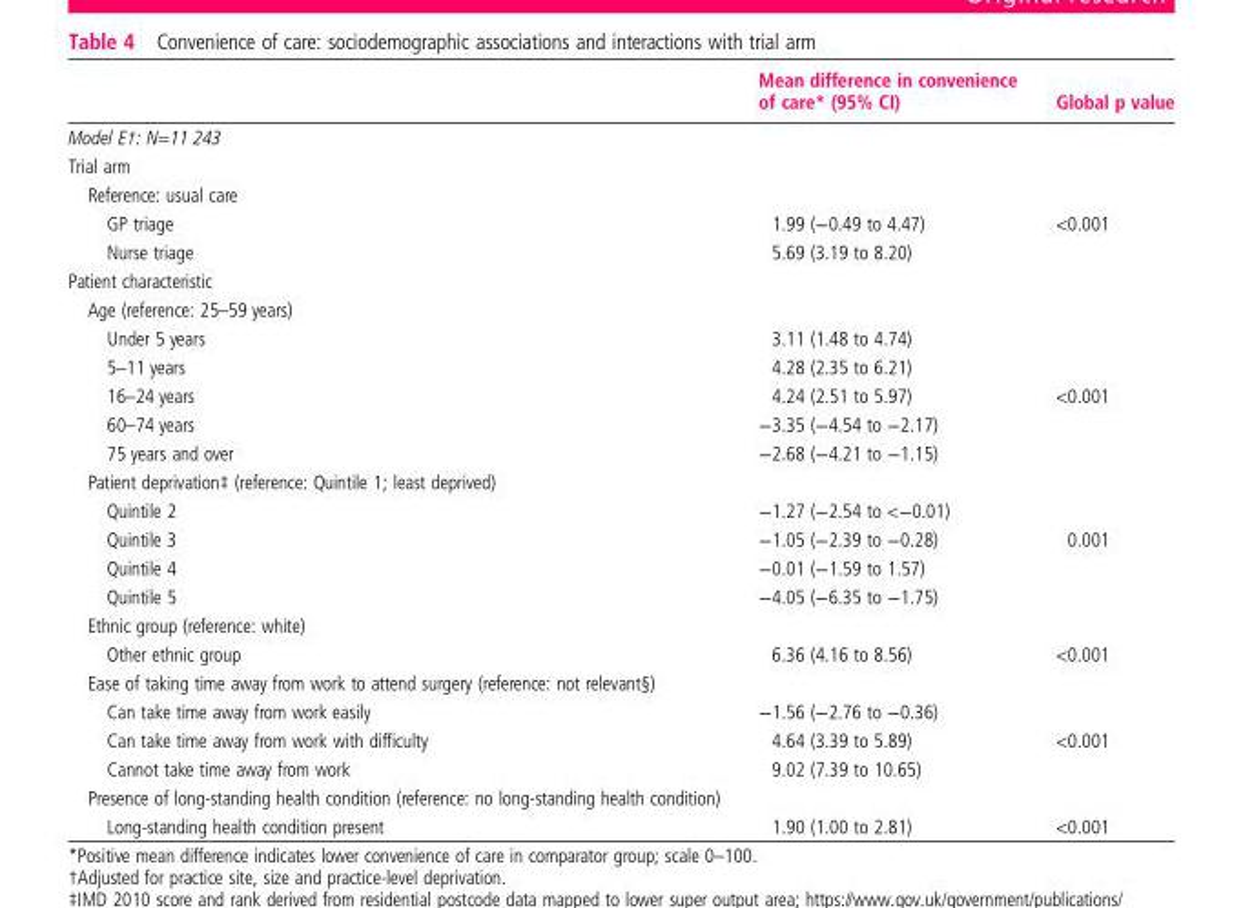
<table><thead><tr><td></td><td>Mean difference in convenience of care* (95% CI)</td><td>Global p value</td></tr></thead><tbody><tr><td colspan="3">Model E†: N=11 243</td></tr><tr><td colspan="3">Trial arm</td></tr><tr><td colspan="3">Reference: usual care</td></tr><tr><td>GP triage</td><td>1.99 (−0.49 to 4.47)</td><td>&lt;0.001</td></tr><tr><td>Nurse triage</td><td>5.69 (3.19 to 8.20)</td><td></td></tr><tr><td colspan="3">Patient characteristic</td></tr><tr><td colspan="3">Age (reference: 25–59 years)</td></tr><tr><td>Under 5 years</td><td>3.11 (1.48 to 4.74)</td><td></td></tr><tr><td>5–11 years</td><td>4.28 (2.35 to 6.21)</td><td></td></tr><tr><td>16–24 years</td><td>4.24 (2.51 to 5.97)</td><td>&lt;0.001</td></tr><tr><td>60–74 years</td><td>−3.35 (−4.54 to −2.17)</td><td></td></tr><tr><td>75 years and over</td><td>−2.68 (−4.21 to −1.15)</td><td></td></tr><tr><td colspan="3">Patient deprivation‡ (reference: Quintile 1; least deprived)</td></tr><tr><td>Quintile 2</td><td>−1.27 (−2.54 to &lt;−0.01)</td><td></td></tr><tr><td>Quintile 3</td><td>−1.05 (−2.39 to −0.28)</td><td>0.001</td></tr><tr><td>Quintile 4</td><td>−0.01 (−1.59 to 1.57)</td><td></td></tr><tr><td>Quintile 5</td><td>−4.05 (−6.35 to −1.75)</td><td></td></tr><tr><td colspan="3">Ethnic group (reference: white)</td></tr><tr><td>Other ethnic group</td><td>6.36 (4.16 to 8.56)</td><td>&lt;0.001</td></tr><tr><td colspan="3">Ease of taking time away from work to attend surgery (reference: not relevant§)</td></tr><tr><td>Can take time away from work easily</td><td>−1.56 (−2.76 to −0.36)</td><td></td></tr><tr><td>Can take time away from work with difficulty</td><td>4.64 (3.39 to 5.89)</td><td>&lt;0.001</td></tr><tr><td>Cannot take time away from work</td><td>9.02 (7.39 to 10.65)</td><td></td></tr><tr><td colspan="3">Presence of long-standing health condition (reference: no long-standing health condition)</td></tr><tr><td>Long-standing health condition present</td><td>1.90 (1.00 to 2.81)</td><td>&lt;0.001</td></tr></tbody></table>